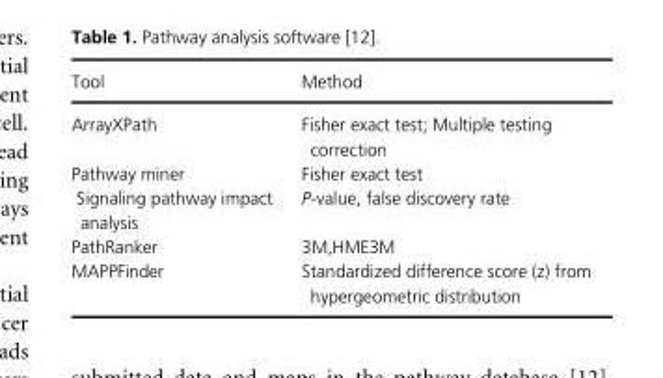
<table><thead><tr><td>Tool</td><td>Method</td></tr></thead><tbody><tr><td>ArrayXPath</td><td>Fisher exact test; Multiple testing correction</td></tr><tr><td>Pathway miner</td><td>Fisher exact test</td></tr><tr><td>Signaling pathway impact analysis</td><td>P- value, false discovery rate</td></tr><tr><td>PathRanker</td><td>3M,HME3M</td></tr><tr><td>MAPPFinder</td><td>Standardized difference score (z) from hypergeometric distribution</td></tr></tbody></table>